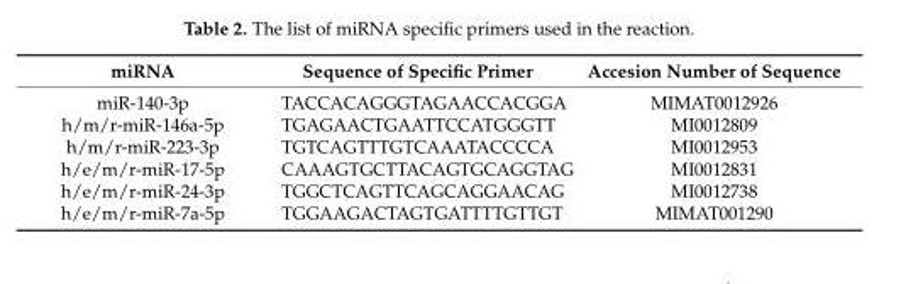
<table><thead><tr><td>miRNA</td><td>Sequence of Specific Primer</td><td>Accesion Number of Sequence</td></tr></thead><tbody><tr><td>miR-140-3p</td><td>TACCACAGGGTAGAACCACGGA</td><td>MIMAT0012926</td></tr><tr><td>h/m/r-miR-146a-5p</td><td>TGAGAACTGAATTCCATGGGTT</td><td>MI0012809</td></tr><tr><td>h/m/r-miR-223-3p</td><td>TGTCAGTTTGTCAAATACCCCA</td><td>MI0012953</td></tr><tr><td>h/e/m/r-miR-17-5p</td><td>CAAAGTGCTTACAGTGCAGGTAG</td><td>MI0012831</td></tr><tr><td>h/e/m/r-miR-24-3p</td><td>TGGCTCAGTTCAGCAGGAACAG</td><td>MI0012738</td></tr><tr><td>h/e/m/r-miR-7a-5p</td><td>TGGAAGACTAGTGATTTTGTTGT</td><td>MIMAT001290</td></tr></tbody></table>